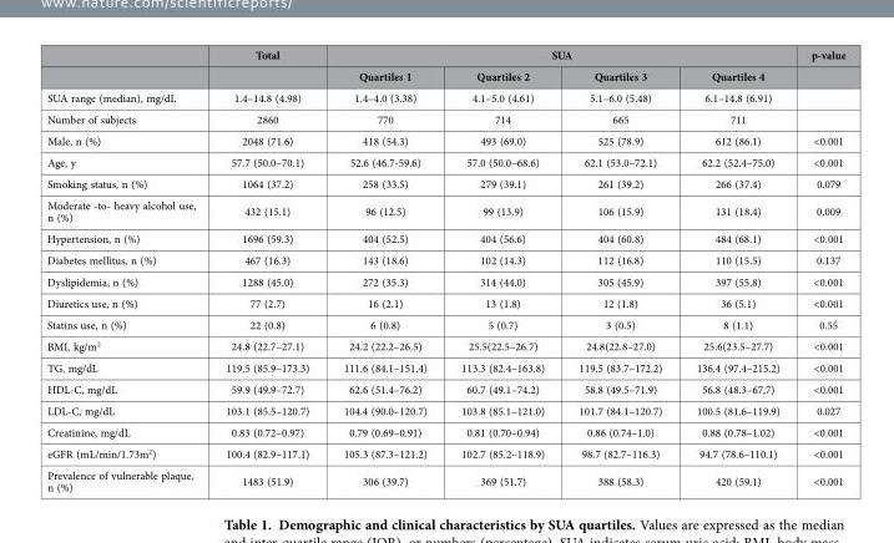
<table><thead><tr><td rowspan="2"></td><td rowspan="2">Total</td><td colspan="4">SUA</td><td rowspan="2">p-value</td></tr><tr><td>Quartiles 1</td><td>Quartiles 2</td><td>Quartiles 3</td><td>Quartiles 4</td></tr></thead><tbody><tr><td>SUA range (median), mg/dL</td><td>1.4–14.8 (4.98)</td><td>1.4–4.0 (3.38)</td><td>4.1–5.0 (4.61)</td><td>5.1–6.0 (5.48)</td><td>6.1–14.8 (6.91)</td><td></td></tr><tr><td>Number of subjects</td><td>2860</td><td>770</td><td>714</td><td>665</td><td>711</td><td></td></tr><tr><td>Male, n (%)</td><td>2048 (71.6)</td><td>418 (54.3)</td><td>493 (69.0)</td><td>525 (78.9)</td><td>612 (86.1)</td><td>&lt;0.001</td></tr><tr><td>Age, y</td><td>57.7 (50.0–70.1)</td><td>52.6 (46.7-59.6)</td><td>57.0 (50.0–68.6)</td><td>62.1 (53.0–72.1)</td><td>62.2 (52.4–75.0)</td><td>&lt;0.001</td></tr><tr><td>Smoking status, n (%)</td><td>1064 (37.2)</td><td>258 (33.5)</td><td>279 (39.1)</td><td>261 (39.2)</td><td>266 (37.4)</td><td>0.079</td></tr><tr><td>Moderate -to- heavy alcohol use, n (%)</td><td>432 (15.1)</td><td>96 (12.5)</td><td>99 (13.9)</td><td>106 (15.9)</td><td>131 (18.4)</td><td>0.009</td></tr><tr><td>Hypertension, n (%)</td><td>1696 (59.3)</td><td>404 (52.5)</td><td>404 (56.6)</td><td>404 (60.8)</td><td>484 (68.1)</td><td>&lt;0.001</td></tr><tr><td>Diabetes mellitus, n (%)</td><td>467 (16.3)</td><td>143 (18.6)</td><td>102 (14.3)</td><td>112 (16.8)</td><td>110 (15.5)</td><td>0.137</td></tr><tr><td>Dyslipidemia, n (%)</td><td>1288 (45.0)</td><td>272 (35.3)</td><td>314 (44.0)</td><td>305 (45.9)</td><td>397 (55.8)</td><td>&lt;0.001</td></tr><tr><td>Diuretics use, n (%)</td><td>77 (2.7)</td><td>16 (2.1)</td><td>13 (1.8)</td><td>12 (1.8)</td><td>36 (5.1)</td><td>&lt;0.001</td></tr><tr><td>Statins use, n (%)</td><td>22 (0.8)</td><td>6 (0.8)</td><td>5 (0.7)</td><td>3 (0.5)</td><td>8 (1.1)</td><td>0.55</td></tr><tr><td>BMI, kg/m<sup>2</sup></td><td>24.8 (22.7–27.1)</td><td>24.2 (22.2–26.5)</td><td>25.5(22.5–26.7)</td><td>24.8(22.8–27.0)</td><td>25.6(23.5–27.7)</td><td>&lt;0.001</td></tr><tr><td>TG, mg/dL</td><td>119.5 (85.9–173.3)</td><td>111.6 (84.1–151.4)</td><td>113.3 (82.4–163.8)</td><td>119.5 (83.7–172.2)</td><td>136.4 (97.4–215.2)</td><td>&lt;0.001</td></tr><tr><td>HDL-C, mg/dL</td><td>59.9 (49.9–72.7)</td><td>62.6 (51.4–76.2)</td><td>60.7 (49.1–74.2)</td><td>58.8 (49.5–71.9)</td><td>56.8 (48.3–67,7)</td><td>&lt;0.001</td></tr><tr><td>LDL-C, mg/dL</td><td>103.1 (85.5–120.7)</td><td>104.4 (90.0–120.7)</td><td>103.8 (85.1–121.0)</td><td>101.7 (84.1–120.7)</td><td>100.5 (81.6–119.9)</td><td>0.027</td></tr><tr><td>Creatinine, mg/dL</td><td>0.83 (0.72–0.97)</td><td>0.79 (0.69–0.91)</td><td>0.81 (0.70–0.94)</td><td>0.86 (0.74–1.0)</td><td>0.88 (0.78–1.02)</td><td>&lt;0.001</td></tr><tr><td>eGFR (mL/min/1.73m<sup>2</sup>)</td><td>100.4 (82.9–117.1)</td><td>105.3 (87.3–121.2)</td><td>102.7 (85.2–118.9)</td><td>98.7 (82.7–116.3)</td><td>94.7 (78.6–110.1)</td><td>&lt;0.001</td></tr><tr><td>Prevalence of vulnerable plaque, n (%)</td><td>1483 (51.9)</td><td>306 (39.7)</td><td>369 (51.7)</td><td>388 (58.3)</td><td>420 (59.1)</td><td>&lt;0.001</td></tr></tbody></table>